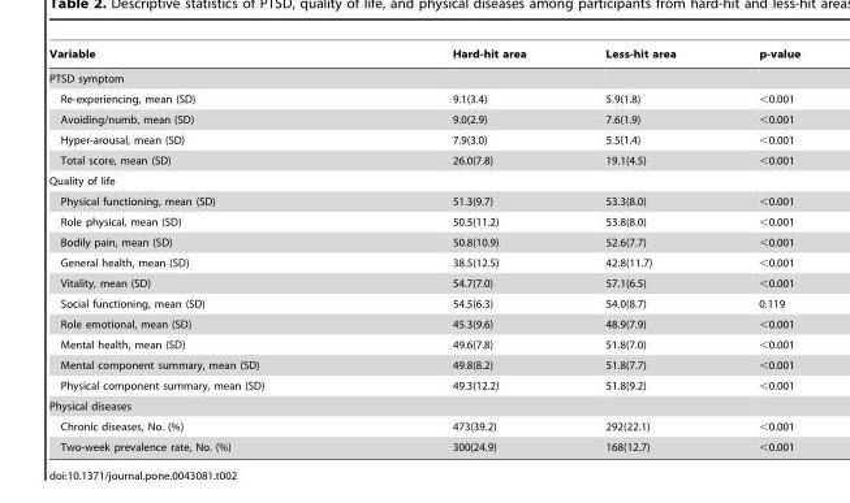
<table><thead><tr><td>Variable</td><td>Hard-hit area</td><td>Less-hit area</td><td>p-value</td></tr></thead><tbody><tr><td colspan="4">PTSD symptom</td></tr><tr><td>Re-experiencing, mean (SD)</td><td>9.1(3.4)</td><td>5.9(1.8)</td><td>&lt;0.001</td></tr><tr><td>Avoiding/numb, mean (SD)</td><td>9.0(2.9)</td><td>7.6(1.9)</td><td>&lt;0.001</td></tr><tr><td>Hyper-arousal, mean (SD)</td><td>7.9(3.0)</td><td>5.5(1.4)</td><td>&lt;0.001</td></tr><tr><td>Total score, mean (SD)</td><td>26.0(7.8)</td><td>19.1(4.5)</td><td>&lt;0.001</td></tr><tr><td colspan="4">Quality of life</td></tr><tr><td>Physical functioning, mean (SD)</td><td>51.3(9.7)</td><td>53.3(8.0)</td><td>&lt;0.001</td></tr><tr><td>Role physical, mean (SD)</td><td>50.5(11.2)</td><td>53.8(8.0)</td><td>&lt;0.001</td></tr><tr><td>Bodily pain, mean (SD)</td><td>50.8(10.9)</td><td>52.6(7.7)</td><td>&lt;0.001</td></tr><tr><td>General health, mean (SD)</td><td>38.5(12.5)</td><td>42.8(11.7)</td><td>&lt;0.001</td></tr><tr><td>Vitality, mean (SD)</td><td>54.7(7.0)</td><td>57.1(6.5)</td><td>&lt;0.001</td></tr><tr><td>Social functioning, mean (SD)</td><td>54.5(6.3)</td><td>54.0(8.7)</td><td>0.119</td></tr><tr><td>Role emotional, mean (SD)</td><td>45.3(9.6)</td><td>48.9(7.9)</td><td>&lt;0.001</td></tr><tr><td>Mental health, mean (SD)</td><td>49.6(7.8)</td><td>51.8(7.0)</td><td>&lt;0.001</td></tr><tr><td>Mental component summary, mean (SD)</td><td>49.8(8.2)</td><td>51.8(7.7)</td><td>&lt;0.001</td></tr><tr><td>Physical component summary, mean (SD)</td><td>49.3(12.2)</td><td>51.8(9.2)</td><td>&lt;0.001</td></tr><tr><td colspan="4">Physical diseases</td></tr><tr><td>Chronic diseases, No. (%)</td><td>473(39.2)</td><td>292(22.1)</td><td>&lt;0.001</td></tr><tr><td>Two-week prevalence rate, No. (%)</td><td>300(24.9)</td><td>168(12.7)</td><td>&lt;0.001</td></tr></tbody></table>